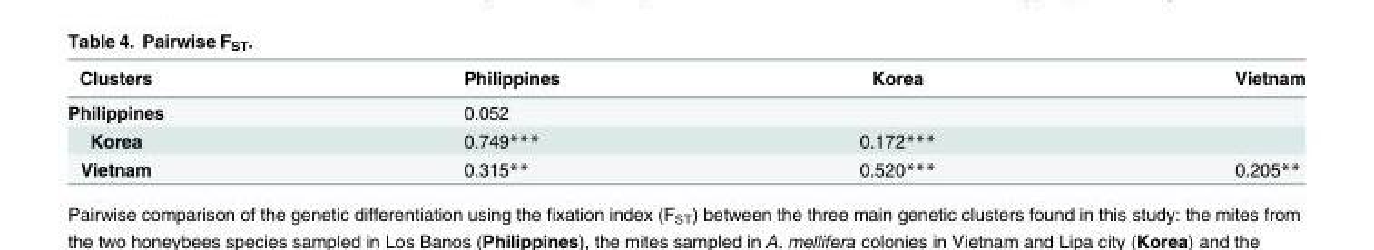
<table><thead><tr><td>Clusters</td><td>Philippines</td><td>Korea</td><td>Vietnam</td></tr></thead><tbody><tr><td>Philippines</td><td>0.052</td><td></td><td></td></tr><tr><td>Korea</td><td>0.749***</td><td>0.172***</td><td></td></tr><tr><td>Vietnam</td><td>0.315**</td><td>0.520***</td><td>0.205**</td></tr></tbody></table>